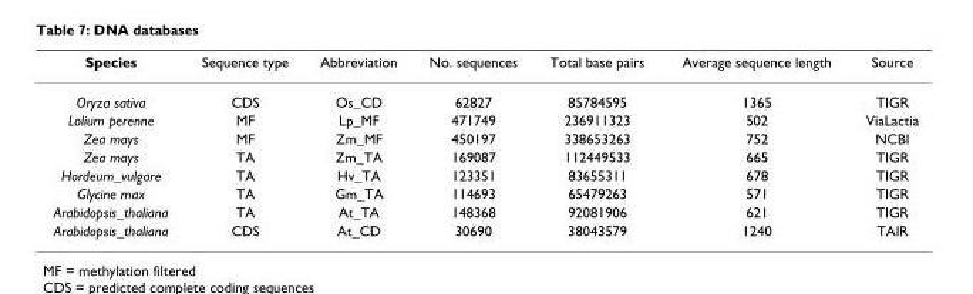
<table><thead><tr><td>Species</td><td>Sequence type</td><td>Abbreviation</td><td>No. sequences</td><td>Total base pairs</td><td>Average sequence length</td><td>Source</td></tr></thead><tbody><tr><td>Oryza sativa</td><td>CDS</td><td>Os_CD</td><td>62827</td><td>85784595</td><td>1365</td><td>TIGR</td></tr><tr><td>Lolium perenne</td><td>MF</td><td>Lp_MF</td><td>471749</td><td>236911323</td><td>502</td><td>ViaLactia</td></tr><tr><td>Zea mays</td><td>MF</td><td>Zm_MF</td><td>450197</td><td>338653263</td><td>752</td><td>NCBI</td></tr><tr><td>Zea mays</td><td>TA</td><td>Zm_TA</td><td>169087</td><td>112449533</td><td>665</td><td>TIGR</td></tr><tr><td>Hordeum_vulgare</td><td>TA</td><td>Hv_TA</td><td>123351</td><td>83655311</td><td>678</td><td>TIGR</td></tr><tr><td>Glycine max</td><td>TA</td><td>Gm_TA</td><td>114693</td><td>65479263</td><td>571</td><td>TIGR</td></tr><tr><td>Arabidopsis_thaliana</td><td>TA</td><td>At_TA</td><td>148368</td><td>92081906</td><td>621</td><td>TIGR</td></tr><tr><td>Arabidopsis_thaliana</td><td>CDS</td><td>At_CD</td><td>30690</td><td>38043579</td><td>1240</td><td>TAIR</td></tr></tbody></table>